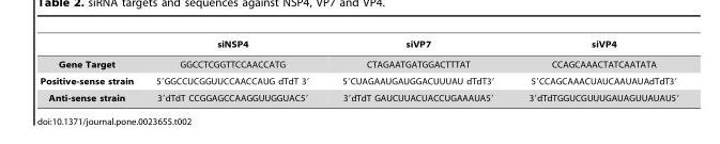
<table><thead><tr><td></td><td>siNSP4</td><td>siVP7</td><td>siVP4</td></tr></thead><tbody><tr><td>Gene Target</td><td>GGCCTCGGTTCCAACCATG</td><td>CTAGAATGATGGACTTTAT</td><td>CCAGCAAACTATCAATATA</td></tr><tr><td>Positive-sense strain</td><td>5′GGCCUCGGUUCCAACCAUG dTdT 3′</td><td>5′CUAGAAUGAUGGACUUUAU dTdT3′</td><td>5′CCAGCAAACUAUCAAUAUAdTdT3′</td></tr><tr><td>Anti-sense strain</td><td>3′dTdT CCGGAGCCAAGGUUGGUAC5′</td><td>3′dTdT GAUCUUACUACCUGAAAUA5′</td><td>3′dTdTGGUCGUUUGAUAGUUAUAU5′</td></tr></tbody></table>